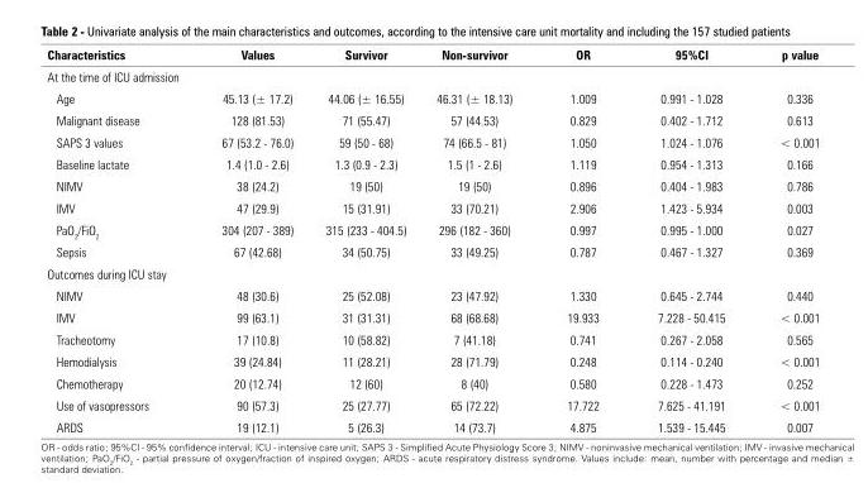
<table><thead><tr><td>Characteristics</td><td>Values</td><td>Survivor</td><td>Non-survivor</td><td>OR</td><td>95%CI</td><td>p value</td></tr></thead><tbody><tr><td colspan="7">At the time of ICU admission</td></tr><tr><td>Age</td><td>45.13 (± 17.2)</td><td>44.06 (± 16.55)</td><td>46.31 (± 18.13)</td><td>1.009</td><td>0.991 - 1.028</td><td>0.336</td></tr><tr><td>Malignant disease</td><td>128 (81.53)</td><td>71 (55.47)</td><td>57 (44.53)</td><td>0.829</td><td>0.402 - 1.712</td><td>0.613</td></tr><tr><td>SAPS 3 values</td><td>67 (53.2 - 76.0)</td><td>59 (50 - 68)</td><td>74 (66.5 - 81)</td><td>1.050</td><td>1.024 - 1.076</td><td>&lt; 0.001</td></tr><tr><td>Baseline lactate</td><td>1.4 (1.0 - 2.6)</td><td>1.3 (0.9 - 2.3)</td><td>1.5 (1 - 2.6)</td><td>1.119</td><td>0.954 - 1.313</td><td>0.166</td></tr><tr><td>NIMV</td><td>38 (24.2)</td><td>19 (50)</td><td>19 (50)</td><td>0.896</td><td>0.404 - 1.983</td><td>0.786</td></tr><tr><td>IMV</td><td>47 (29.9)</td><td>15 (31.91)</td><td>33 (70.21)</td><td>2.906</td><td>1.423 - 5.934</td><td>0.003</td></tr><tr><td>PaO<sub>2</sub>/FiO<sub>2</sub></td><td>304 (207 - 389)</td><td>315 (233 - 404.5)</td><td>296 (182 - 360)</td><td>0.997</td><td>0.995 - 1.000</td><td>0.027</td></tr><tr><td>Sepsis</td><td>67 (42.68)</td><td>34 (50.75)</td><td>33 (49.25)</td><td>0.787</td><td>0.467 - 1.327</td><td>0.369</td></tr><tr><td colspan="7">Outcomes during ICU stay</td></tr><tr><td>NIMV</td><td>48 (30.6)</td><td>25 (52.08)</td><td>23 (47.92)</td><td>1.330</td><td>0.645 - 2.744</td><td>0.440</td></tr><tr><td>IMV</td><td>99 (63.1)</td><td>31 (31.31)</td><td>68 (68.68)</td><td>19.933</td><td>7.228 - 50.415</td><td>&lt; 0.001</td></tr><tr><td>Tracheotomy</td><td>17 (10.8)</td><td>10 (58.82)</td><td>7 (41.18)</td><td>0.741</td><td>0.267 - 2.058</td><td>0.565</td></tr><tr><td>Hemodialysis</td><td>39 (24.84)</td><td>11 (28.21)</td><td>28 (71.79)</td><td>0.248</td><td>0.114 - 0.240</td><td>&lt; 0.001</td></tr><tr><td>Chemotherapy</td><td>20 (12.74)</td><td>12 (60)</td><td>8 (40)</td><td>0.580</td><td>0.228 - 1.473</td><td>0.252</td></tr><tr><td>Use of vasopressors</td><td>90 (57.3)</td><td>25 (27.77)</td><td>65 (72.22)</td><td>17.722</td><td>7.625 - 41.191</td><td>&lt; 0.001</td></tr><tr><td>ARDS</td><td>19 (12.1)</td><td>5 (26.3)</td><td>14 (73.7)</td><td>4.875</td><td>1.539 - 15.445</td><td>0.007</td></tr></tbody></table>